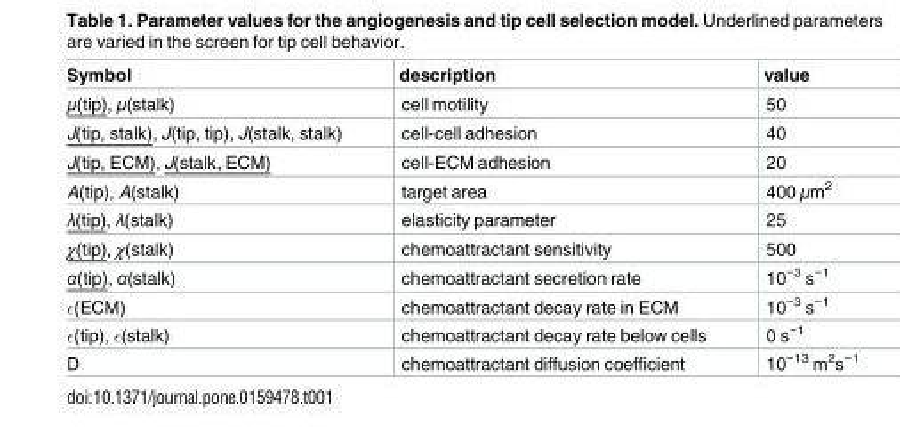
<table><thead><tr><td>Symbol</td><td>description</td><td>value</td></tr></thead><tbody><tr><td>μ(tip), μ(stalk)</td><td>cell motility</td><td>50</td></tr><tr><td>J(tip, stalk), J(tip, tip), J(stalk, stalk)</td><td>cell-cell adhesion</td><td>40</td></tr><tr><td>J(tip, ECM), J(stalk, ECM)</td><td>cell-ECM adhesion</td><td>20</td></tr><tr><td>A(tip), A(stalk)</td><td>target area</td><td>400 μm<sup>2</sup></td></tr><tr><td>λ(tip), λ(stalk)</td><td>elasticity parameter</td><td>25</td></tr><tr><td>χ(tip), χ(stalk)</td><td>chemoattractant sensitivity</td><td>500</td></tr><tr><td>α(tip), α(stalk)</td><td>chemoattractant secretion rate</td><td>10<sup>−3</sup> s<sup>−1</sup></td></tr><tr><td>ϵ(ECM)</td><td>chemoattractant decay rate in ECM</td><td>10<sup>−3</sup> s<sup>−1</sup></td></tr><tr><td>ϵ(tip), ϵ(stalk)</td><td>chemoattractant decay rate below cells</td><td>0 s<sup>−1</sup></td></tr><tr><td>D</td><td>chemoattractant diffusion coefficient</td><td>10−13</td></tr></tbody></table>